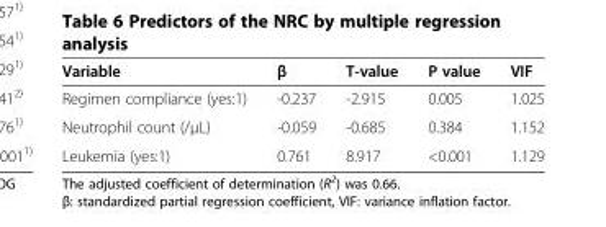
<table><thead><tr><td>Variable</td><td>β</td><td>T-value</td><td>P value</td><td>VIF</td></tr></thead><tbody><tr><td>Regimen compliance (yes:1)</td><td>-0.237</td><td>-2.915</td><td>0.005</td><td>1.025</td></tr><tr><td>Neutrophil count (/μL)</td><td>-0.059</td><td>-0.685</td><td>0.384</td><td>1.152</td></tr><tr><td>Leukemia (yes:1)</td><td>0.761</td><td>8.917</td><td>&lt;0.001</td><td>1.129</td></tr></tbody></table>